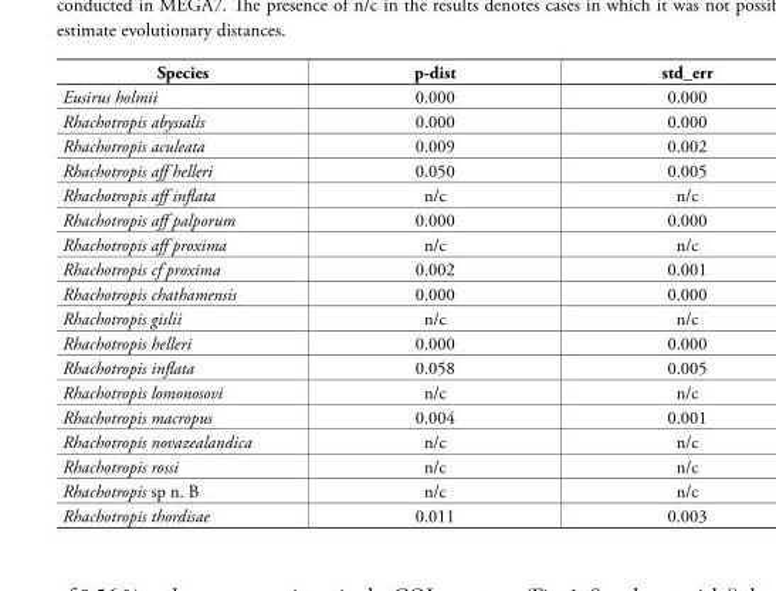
<table><thead><tr><td>Species</td><td>p-dist</td><td>std_err</td></tr></thead><tbody><tr><td>Eusirus holmii</td><td>0.000</td><td>0.000</td></tr><tr><td>Rhachotropis abyssalis</td><td>0.000</td><td>0.000</td></tr><tr><td>Rhachotropis aculeata</td><td>0.009</td><td>0.002</td></tr><tr><td>Rhachotropis aff helleri</td><td>0.050</td><td>0.005</td></tr><tr><td>Rhachotropis aff inflata</td><td>n/c</td><td>n/c</td></tr><tr><td>Rhachotropis aff palporum</td><td>0.000</td><td>0.000</td></tr><tr><td>Rhachotropis aff proxima</td><td>n/c</td><td>n/c</td></tr><tr><td>Rhachotropis cf proxima</td><td>0.002</td><td>0.001</td></tr><tr><td>Rhachotropis chathamensis</td><td>0.000</td><td>0.000</td></tr><tr><td>Rhachotropis gislii</td><td>n/c</td><td>n/c</td></tr><tr><td>Rhachotropis helleri</td><td>0.000</td><td>0.000</td></tr><tr><td>Rhachotropis inflata</td><td>0.058</td><td>0.005</td></tr><tr><td>Rhachotropis lomonosovi</td><td>n/c</td><td>n/c</td></tr><tr><td>Rhachotropis macropus</td><td>0.004</td><td>0.001</td></tr><tr><td>Rhachotropis novazealandica</td><td>n/c</td><td>n/c</td></tr><tr><td>Rhachotropis rossi</td><td>n/c</td><td>n/c</td></tr><tr><td>Rhachotropis sp n. B</td><td>n/c</td><td>n/c</td></tr><tr><td>Rhachotropis thordisae</td><td>0.011</td><td>0.003</td></tr></tbody></table>